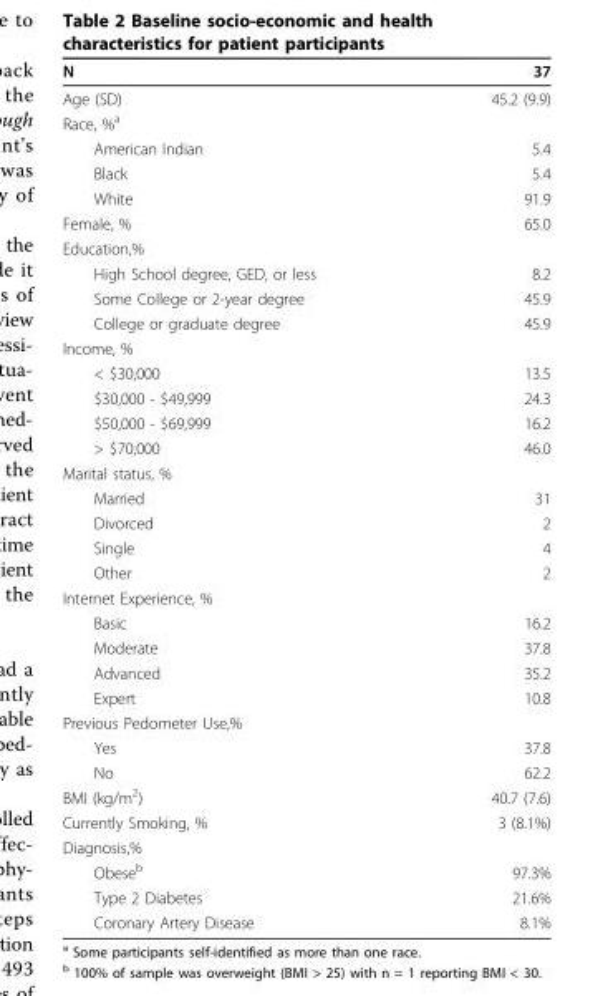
<table><thead><tr><td>N</td><td>37</td></tr></thead><tbody><tr><td>Age (SD)</td><td>45.2 (9.9)</td></tr><tr><td colspan="2">Race, %<sup>a</sup></td></tr><tr><td>American Indian</td><td>5.4</td></tr><tr><td>Black</td><td>5.4</td></tr><tr><td>White</td><td>91.9</td></tr><tr><td>Female, %</td><td>65.0</td></tr><tr><td colspan="2">Education,%</td></tr><tr><td>High School degree, GED, or less</td><td>8.2</td></tr><tr><td>Some College or 2-year degree</td><td>45.9</td></tr><tr><td>College or graduate degree</td><td>45.9</td></tr><tr><td colspan="2">Income, %</td></tr><tr><td>&lt; $30,000</td><td>13.5</td></tr><tr><td>$30,000 - $49,999</td><td>24.3</td></tr><tr><td>$50,000 - $69,999</td><td>16.2</td></tr><tr><td>&gt; $70,000</td><td>46.0</td></tr><tr><td colspan="2">Marital status, %</td></tr><tr><td>Married</td><td>31</td></tr><tr><td>Divorced</td><td>2</td></tr><tr><td>Single</td><td>4</td></tr><tr><td>Other</td><td>2</td></tr><tr><td colspan="2">Internet Experience, %</td></tr><tr><td>Basic</td><td>16.2</td></tr><tr><td>Moderate</td><td>37.8</td></tr><tr><td>Advanced</td><td>35.2</td></tr><tr><td>Expert</td><td>10.8</td></tr><tr><td colspan="2">Previous Pedometer Use,%</td></tr><tr><td>Yes</td><td>37.8</td></tr><tr><td>No</td><td>62.2</td></tr><tr><td>BMI (kg/m<sup>2</sup>)</td><td>40.7 (7.6)</td></tr><tr><td>Currently Smoking, %</td><td>3 (8.1%)</td></tr><tr><td colspan="2">Diagnosis,%</td></tr><tr><td>Obese<sup>b</sup></td><td>97.3%</td></tr><tr><td>Type 2 Diabetes</td><td>21.6%</td></tr><tr><td>Coronary Artery Disease</td><td>8.1%</td></tr></tbody></table>